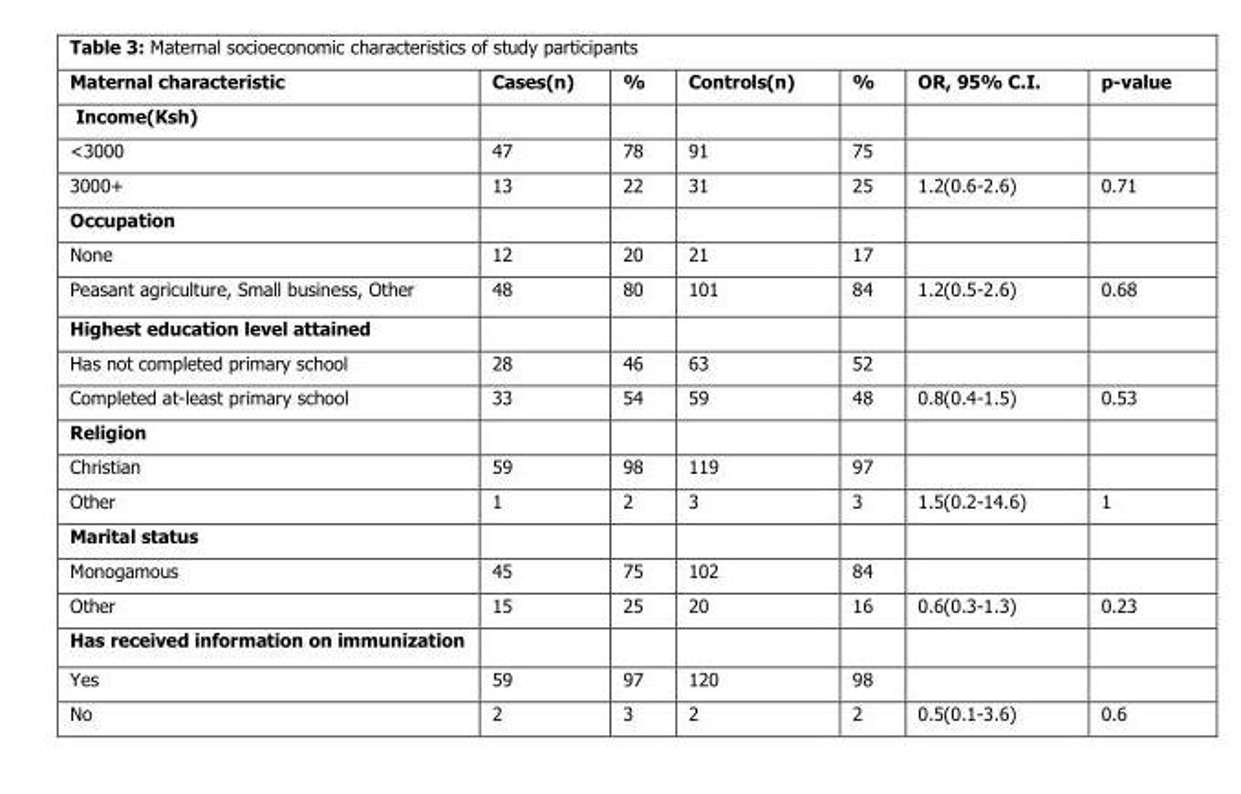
<table><thead><tr><td>Maternal characteristic</td><td>Cases(n)</td><td>%</td><td>Controls(n)</td><td>%</td><td>OR, 95% C.I.</td><td>p-value</td></tr></thead><tbody><tr><td colspan="7">Income(Ksh)</td></tr><tr><td>&lt;3000</td><td>47</td><td>78</td><td>91</td><td>75</td><td></td><td></td></tr><tr><td>3000+</td><td>13</td><td>22</td><td>31</td><td>25</td><td>1.2(0.6-2.6)</td><td>0.71</td></tr><tr><td colspan="7">Occupation</td></tr><tr><td>None</td><td>12</td><td>20</td><td>21</td><td>17</td><td></td><td></td></tr><tr><td>Peasant agriculture, Small business, Other</td><td>48</td><td>80</td><td>101</td><td>84</td><td>1.2(0.5-2.6)</td><td>0.68</td></tr><tr><td colspan="7">Highest education level attained</td></tr><tr><td>Has not completed primary school</td><td>28</td><td>46</td><td>63</td><td>52</td><td></td><td></td></tr><tr><td>Completed at-least primary school</td><td>33</td><td>54</td><td>59</td><td>48</td><td>0.8(0.4-1.5)</td><td>0.53</td></tr><tr><td colspan="7">Religion</td></tr><tr><td>Christian</td><td>59</td><td>98</td><td>119</td><td>97</td><td></td><td></td></tr><tr><td>Other</td><td>1</td><td>2</td><td>3</td><td>3</td><td>1.5(0.2-14.6)</td><td>1</td></tr><tr><td colspan="7">Marital status</td></tr><tr><td>Monogamous</td><td>45</td><td>75</td><td>102</td><td>84</td><td></td><td></td></tr><tr><td>Other</td><td>15</td><td>25</td><td>20</td><td>16</td><td>0.6(0.3-1.3)</td><td>0.23</td></tr><tr><td colspan="7">Has received information on immunization</td></tr><tr><td>Yes</td><td>59</td><td>97</td><td>120</td><td>98</td><td></td><td></td></tr><tr><td>No</td><td>2</td><td>3</td><td>2</td><td>2</td><td>0.5(0.1-3.6)</td><td>0.6</td></tr></tbody></table>